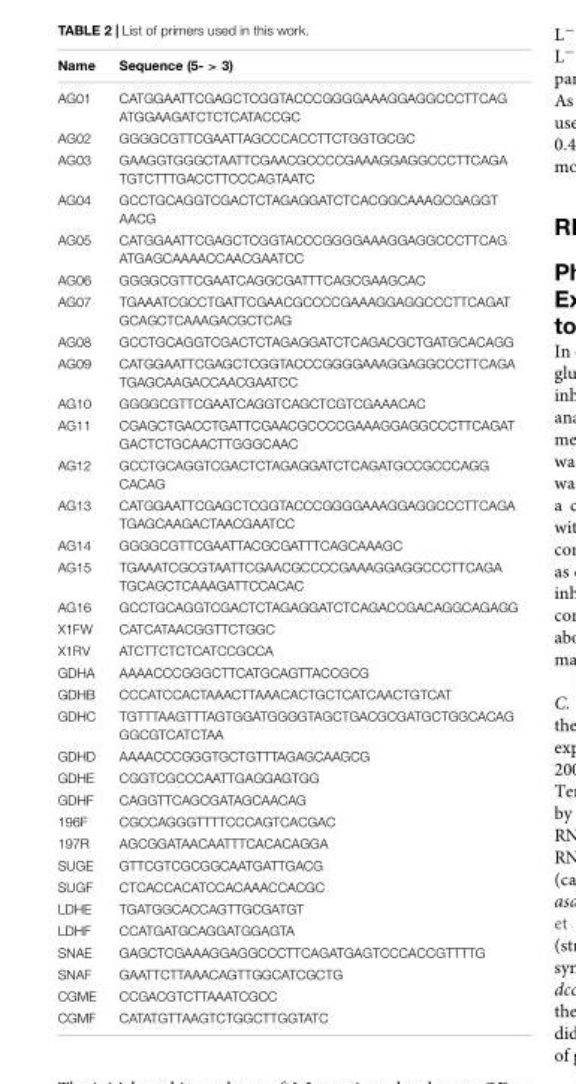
<table><thead><tr><td>Name</td><td>Sequence (5- &gt; 3)</td></tr></thead><tbody><tr><td>AG01</td><td>CATGGAATTCGAGCTCGGTACCCGGGGAAAGGAGGCCCTTCAG ATGGAAGATCTCTCATACCGC</td></tr><tr><td>AG02</td><td>GGGGCGTTCGAATTAGCCCACCTTCTGGTGCGC</td></tr><tr><td>AG03</td><td>GAAGGTGGGCTAATTCGAACGCCCCGAAAGGAGGCCCTTCAGA TGTCTTTGACCTTCCCAGTAATC</td></tr><tr><td>AG04</td><td>GCCTGCAGGTCGACTCTAGAGGATCTCACGGCAAAGCGAGGT AACG</td></tr><tr><td>AG05</td><td>CATGGAATTCGAGCTCGGTACCCGGGGAAAGGAGGCCCTTCAG ATGAGCAAAACCAACGAATCC</td></tr><tr><td>AG06</td><td>GGGGCGTTCGAATCAGGCGATTTCAGCGAAGCAC</td></tr><tr><td>AG07</td><td>TGAAATCGCCTGATTCGAACGCCCCGAAAGGAGGCCCTTCAGAT GCAGCTCAAAGACGCTCAG</td></tr><tr><td>AG08</td><td>GCCTGCAGGTCGACTCTAGAGGATCTCAGACGCTGATGCACAGG</td></tr><tr><td>AG09</td><td>CATGGAATTCGAGCTCGGTACCCGGGGAAAGGAGGCCCTTCAGA TGAGCAAGACCAACGAATCC</td></tr><tr><td>AG10</td><td>GGGGCGTTCGAATCAGGTCAGCTCGTCGAAACAC</td></tr><tr><td>AG11</td><td>CGAGCTGACCTGATTCGAACGCCCCGAAAGGAGGCCCTTCAGAT GACTCTGCAACTTGGGCAAC</td></tr><tr><td>AG12</td><td>GCCTGCAGGTCGACTCTAGAGGATCTCAGATGCCGCCCAGG CACAG</td></tr><tr><td>AG13</td><td>CATGGAATTCGAGCTCGGTACCCGGGGAAAGGAGGCCCTTCAGA TGAGCAAGACTAACGAATCC</td></tr><tr><td>AG14</td><td>GGGGCGTTCGAATTACGCGATTTCAGCAAAGC</td></tr><tr><td>AG15</td><td>TGAAATCGCGTAATTCGAACGCCCCGAAAGGAGGCCCTTCAGA TGCAGCTCAAAGATTCCACAC</td></tr><tr><td>AG16</td><td>GCCTGCAGGTCGACTCTAGAGGATCTCAGACCGACAGGCAGAGG</td></tr><tr><td>X1FW</td><td>CATCATAACGGTTCTGGC</td></tr><tr><td>X1RV</td><td>ATCTTCTCTCATCCGCCA</td></tr><tr><td>GDHA</td><td>AAAACCCGGGCTTCATGCAGTTACCGCG</td></tr><tr><td>GDHB</td><td>CCCATCCACTAAACTTAAACACTGCTCATCAACTGTCAT</td></tr><tr><td>GDHC</td><td>TGTTTAAGTTTAGTGGATGGGGTAGCTGACGCGATGCTGGCACAG GGCGTCATCTAA</td></tr><tr><td>GDHD</td><td>AAAACCCGGGTGCTGTTTAGAGCAAGCG</td></tr><tr><td>GDHE</td><td>CGGTCGCCCAATTGAGGAGTGG</td></tr><tr><td>GDHF</td><td>CAGGTTCAGCGATAGCAACAG</td></tr><tr><td>196F</td><td>CGCCAGGGTTTTCCCAGTCACGAC</td></tr><tr><td>197R</td><td>AGCGGATAACAATTTCACACAGGA</td></tr><tr><td>SUGE</td><td>GTTCGTCGCGGCAATGATTGACG</td></tr><tr><td>SUGF</td><td>CTCACCACATCCACAAACCACGC</td></tr><tr><td>LDHE</td><td>TGATGGCACCAGTTGCGATGT</td></tr><tr><td>LDHF</td><td>CCATGATGCAGGATGGAGTA</td></tr><tr><td>SNAE</td><td>GAGCTCGAAAGGAGGCCCTTCAGATGAGTCCCACCGTTTTG</td></tr><tr><td>SNAF</td><td>GAATTCTTAAACAGTTGGCATCGCTG</td></tr><tr><td>CGME</td><td>CCGACGTCTTAAATCGCC</td></tr><tr><td>CGMF</td><td>CATATGTTAAGTCTGGCTTGGTATC</td></tr></tbody></table>